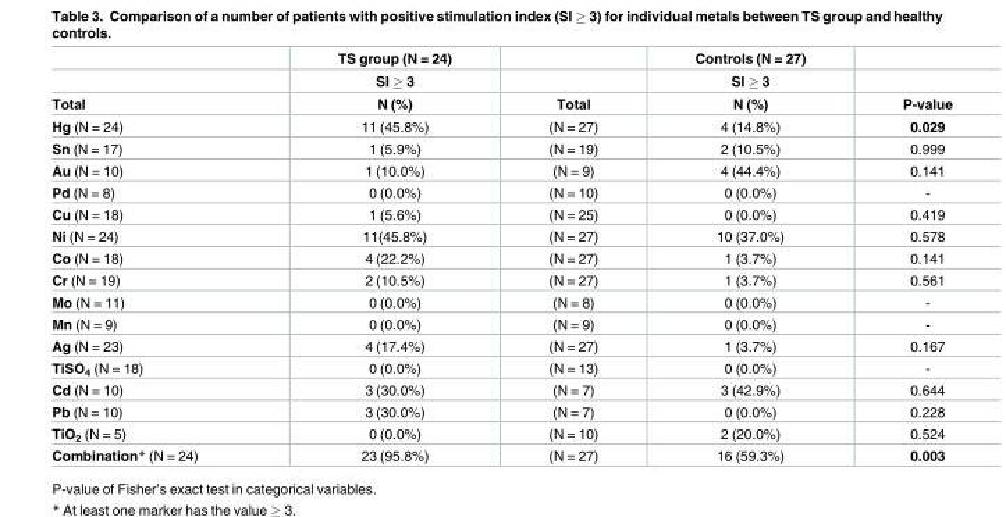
<table><thead><tr><td rowspan="3">Total</td><td rowspan="3">TS group (N = 24) SI ≥ 3 N (%)</td><td rowspan="3">Total</td><td rowspan="3">Controls (N = 27) SI ≥ 3 N (%)</td><td rowspan="3">P-value</td></tr><tr></tr><tr></tr></thead><tbody><tr><td>Hg (N = 24)</td><td>11 (45.8%)</td><td>(N = 27)</td><td>4 (14.8%)</td><td>0.029</td></tr><tr><td>Sn (N = 17)</td><td>1 (5.9%)</td><td>(N = 19)</td><td>2 (10.5%)</td><td>0.999</td></tr><tr><td>Au (N = 10)</td><td>1 (10.0%)</td><td>(N = 9)</td><td>4 (44.4%)</td><td>0.141</td></tr><tr><td>Pd (N = 8)</td><td>0 (0.0%)</td><td>(N = 10)</td><td>0 (0.0%)</td><td>-</td></tr><tr><td>Cu (N = 18)</td><td>1 (5.6%)</td><td>(N = 25)</td><td>0 (0.0%)</td><td>0.419</td></tr><tr><td>Ni (N = 24)</td><td>11(45.8%)</td><td>(N = 27)</td><td>10 (37.0%)</td><td>0.578</td></tr><tr><td>Co (N = 18)</td><td>4 (22.2%)</td><td>(N = 27)</td><td>1 (3.7%)</td><td>0.141</td></tr><tr><td>Cr (N = 19)</td><td>2 (10.5%)</td><td>(N = 27)</td><td>1 (3.7%)</td><td>0.561</td></tr><tr><td>Mo (N = 11)</td><td>0 (0.0%)</td><td>(N = 8)</td><td>0 (0.0%)</td><td>-</td></tr><tr><td>Mn (N = 9)</td><td>0 (0.0%)</td><td>(N = 9)</td><td>0 (0.0%)</td><td>-</td></tr><tr><td>Ag (N = 23)</td><td>4 (17.4%)</td><td>(N = 27)</td><td>1 (3.7%)</td><td>0.167</td></tr><tr><td>TiSO<sub>4</sub> (N = 18)</td><td>0 (0.0%)</td><td>(N = 13)</td><td>0 (0.0%)</td><td>-</td></tr><tr><td>Cd (N = 10)</td><td>3 (30.0%)</td><td>(N = 7)</td><td>3 (42.9%)</td><td>0.644</td></tr><tr><td>Pb (N = 10)</td><td>3 (30.0%)</td><td>(N = 7)</td><td>0 (0.0%)</td><td>0.228</td></tr><tr><td>TiO<sub>2</sub> (N = 5)</td><td>0 (0.0%)</td><td>(N = 10)</td><td>2 (20.0%)</td><td>0.524</td></tr><tr><td>Combination* (N = 24)</td><td>23 (95.8%)</td><td>(N = 27)</td><td>16 (59.3%)</td><td>0.003</td></tr></tbody></table>